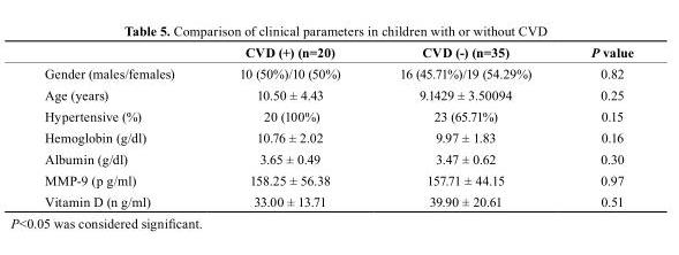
<table><thead><tr><td></td><td>CVD (+) (n=20)</td><td>CVD (-) (n=35)</td><td>P value</td></tr></thead><tbody><tr><td>Gender (males/females)</td><td>10 (50%)/10 (50%)</td><td>16 (45.71%)/19 (54.29%)</td><td>0.82</td></tr><tr><td>Age (years)</td><td>10.50 ± 4.43</td><td>9.1429 ± 3.50094</td><td>0.25</td></tr><tr><td>Hypertensive (%)</td><td>20 (100%)</td><td>23 (65.71%)</td><td>0.15</td></tr><tr><td>Hemoglobin (g/dl)</td><td>10.76 ± 2.02</td><td>9.97 ± 1.83</td><td>0.16</td></tr><tr><td>Albumin (g/dl)</td><td>3.65 ± 0.49</td><td>3.47 ± 0.62</td><td>0.30</td></tr><tr><td>MMP-9 (p g/ml)</td><td>158.25 ± 56.38</td><td>157.71 ± 44.15</td><td>0.97</td></tr><tr><td>Vitamin D (n g/ml)</td><td>33.00 ± 13.71</td><td>39.90 ± 20.61</td><td>0.51</td></tr></tbody></table>